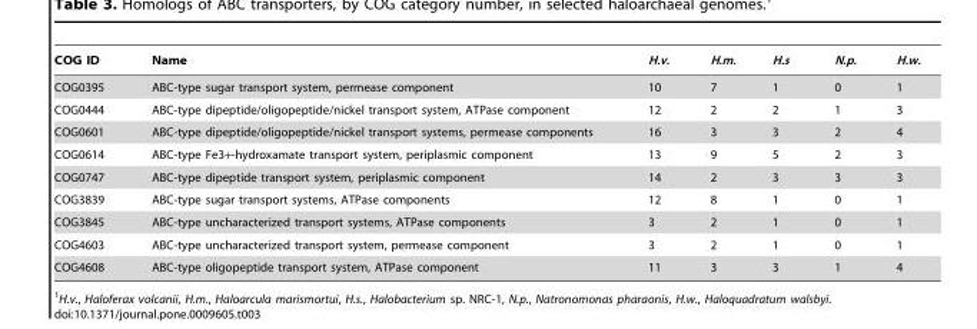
<table><thead><tr><td>COG ID</td><td>Name</td><td>H.v.</td><td>H.m.</td><td>H.s</td><td>N.p.</td><td>H.w.</td></tr></thead><tbody><tr><td>COG0395</td><td>ABC-type sugar transport system, permease component</td><td>10</td><td>7</td><td>1</td><td>0</td><td>1</td></tr><tr><td>COG0444</td><td>ABC-type dipeptide/oligopeptide/nickel transport system, ATPase component</td><td>12</td><td>2</td><td>2</td><td>1</td><td>3</td></tr><tr><td>COG0601</td><td>ABC-type dipeptide/oligopeptide/nickel transport systems, permease components</td><td>16</td><td>3</td><td>3</td><td>2</td><td>4</td></tr><tr><td>COG0614</td><td>ABC-type Fe3+-hydroxamate transport system, periplasmic component</td><td>13</td><td>9</td><td>5</td><td>2</td><td>3</td></tr><tr><td>COG0747</td><td>ABC-type dipeptide transport system, periplasmic component</td><td>14</td><td>2</td><td>3</td><td>3</td><td>3</td></tr><tr><td>COG3839</td><td>ABC-type sugar transport systems, ATPase components</td><td>12</td><td>8</td><td>1</td><td>0</td><td>1</td></tr><tr><td>COG3845</td><td>ABC-type uncharacterized transport systems, ATPase components</td><td>3</td><td>2</td><td>1</td><td>0</td><td>1</td></tr><tr><td>COG4603</td><td>ABC-type uncharacterized transport system, permease component</td><td>3</td><td>2</td><td>1</td><td>0</td><td>1</td></tr><tr><td>COG4608</td><td>ABC-type oligopeptide transport system, ATPase component</td><td>11</td><td>3</td><td>3</td><td>1</td><td>4</td></tr></tbody></table>